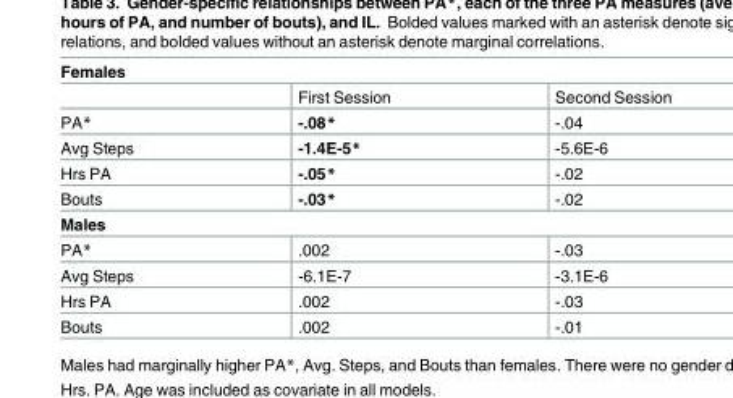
<table><tbody><tr><td colspan="3">Females</td></tr><tr><td></td><td>First Session</td><td>Second Session</td></tr><tr><td>PA*</td><td>-.08*</td><td>-.04</td></tr><tr><td>Avg Steps</td><td>-1.4E-5*</td><td>-5.6E-6</td></tr><tr><td>Hrs PA</td><td>-.05*</td><td>-.02</td></tr><tr><td>Bouts</td><td>-.03*</td><td>-.02</td></tr><tr><td colspan="3">Males</td></tr><tr><td>PA*</td><td>.002</td><td>-.03</td></tr><tr><td>Avg Steps</td><td>-6.1E-7</td><td>-3.1E-6</td></tr><tr><td>Hrs PA</td><td>.002</td><td>-.03</td></tr><tr><td>Bouts</td><td>.002</td><td>-.01</td></tr></tbody></table>